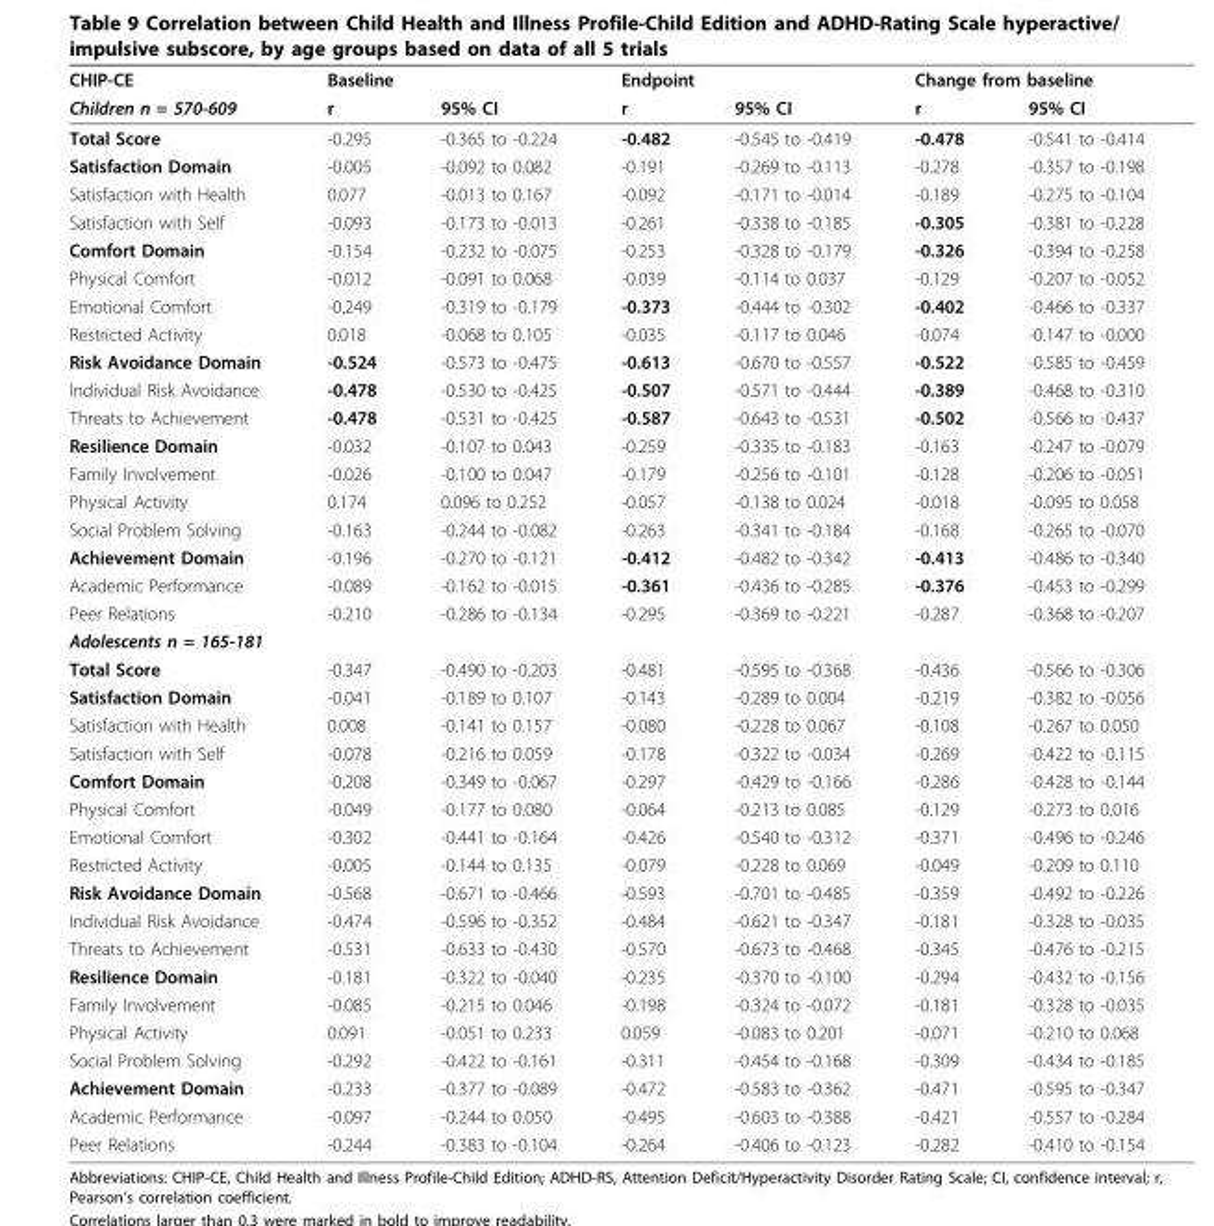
<table><thead><tr><td rowspan="2">CHIP-CE Children n = 570-609</td><td colspan="2">Baseline</td><td colspan="2">Endpoint</td><td colspan="2">Change from baseline</td></tr><tr><td>r</td><td>95% CI</td><td>r</td><td>95% CI</td><td>r</td><td>95% CI</td></tr></thead><tbody><tr><td>Total Score</td><td>-0.295</td><td>-0.365 to -0.224</td><td>-0.482</td><td>-0.545 to -0.419</td><td>-0.478</td><td>-0.541 to -0.414</td></tr><tr><td>Satisfaction Domain</td><td>-0.005</td><td>-0.092 to 0.082</td><td>-0.191</td><td>-0.269 to -0.113</td><td>-0.278</td><td>-0.357 to -0.198</td></tr><tr><td>Satisfaction with Health</td><td>0.077</td><td>-0.013 to 0.167</td><td>-0.092</td><td>-0.171 to -0.014</td><td>-0.189</td><td>-0.275 to -0.104</td></tr><tr><td>Satisfaction with Self</td><td>-0.093</td><td>-0.173 to -0.013</td><td>-0.261</td><td>-0.338 to -0.185</td><td>-0.305</td><td>-0.381 to -0.228</td></tr><tr><td>Comfort Domain</td><td>-0.154</td><td>-0.232 to -0.075</td><td>-0.253</td><td>-0.328 to -0.179</td><td>-0.326</td><td>-0.394 to -0.258</td></tr><tr><td>Physical Comfort</td><td>-0.012</td><td>-0.091 to 0.068</td><td>-0.039</td><td>-0.114 to 0.037</td><td>-0.129</td><td>-0.207 to -0.052</td></tr><tr><td>Emotional Comfort</td><td>-0.249</td><td>-0.319 to -0.179</td><td>-0.373</td><td>-0.444 to -0.302</td><td>-0.402</td><td>-0.466 to -0.337</td></tr><tr><td>Restricted Activity</td><td>0.018</td><td>-0.068 to 0.105</td><td>-0.035</td><td>-0.117 to 0.046</td><td>-0.074</td><td>-0.147 to -0.000</td></tr><tr><td>Risk Avoidance Domain</td><td>-0.524</td><td>-0.573 to -0.475</td><td>-0.613</td><td>-0.670 to -0.557</td><td>-0.522</td><td>-0.585 to -0.459</td></tr><tr><td>Individual Risk Avoidance</td><td>-0.478</td><td>-0.530 to -0.425</td><td>-0.507</td><td>-0.571 to -0.444</td><td>-0.389</td><td>-0.468 to -0.310</td></tr><tr><td>Threats to Achievement</td><td>-0.478</td><td>-0.531 to -0.425</td><td>-0.587</td><td>-0.643 to -0.531</td><td>-0.502</td><td>-0.566 to -0.437</td></tr><tr><td>Resilience Domain</td><td>-0.032</td><td>-0.107 to 0.043</td><td>-0.259</td><td>-0.335 to -0.183</td><td>-0.163</td><td>-0.247 to -0.079</td></tr><tr><td>Family Involvement</td><td>-0.026</td><td>-0.100 to 0.047</td><td>-0.179</td><td>-0.256 to -0.101</td><td>-0.128</td><td>-0.206 to -0.051</td></tr><tr><td>Physical Activity</td><td>0.174</td><td>0.096 to 0.252</td><td>-0.057</td><td>-0.138 to 0.024</td><td>-0.018</td><td>-0.095 to 0.058</td></tr><tr><td>Social Problem Solving</td><td>-0.163</td><td>-0.244 to -0.082</td><td>-0.263</td><td>-0.341 to -0.184</td><td>-0.168</td><td>-0.265 to -0.070</td></tr><tr><td>Achievement Domain</td><td>-0.196</td><td>-0.270 to -0.121</td><td>-0.412</td><td>-0.482 to -0.342</td><td>-0.413</td><td>-0.486 to -0.340</td></tr><tr><td>Academic Performance</td><td>-0.089</td><td>-0.162 to -0.015</td><td>-0.361</td><td>-0.436 to -0.285</td><td>-0.376</td><td>-0.453 to -0.299</td></tr><tr><td>Peer Relations</td><td>-0.210</td><td>-0.286 to -0.134</td><td>-0.295</td><td>-0.369 to -0.221</td><td>-0.287</td><td>-0.368 to -0.207</td></tr><tr><td colspan="7">Adolescents n = 165-181</td></tr><tr><td>Total Score</td><td>-0.347</td><td>-0.490 to -0.203</td><td>-0.481</td><td>-0.595 to -0.368</td><td>-0.436</td><td>-0.566 to -0.306</td></tr><tr><td>Satisfaction Domain</td><td>-0.041</td><td>-0.189 to 0.107</td><td>-0.143</td><td>-0.289 to 0.004</td><td>-0.219</td><td>-0.382 to -0.056</td></tr><tr><td>Satisfaction with Health</td><td>0.008</td><td>-0.141 to 0.157</td><td>-0.080</td><td>-0.228 to 0.067</td><td>-0.108</td><td>-0.267 to 0.050</td></tr><tr><td>Satisfaction with Self</td><td>-0.078</td><td>-0.216 to 0.059</td><td>-0.178</td><td>-0.322 to -0.034</td><td>-0.269</td><td>-0.422 to -0.115</td></tr><tr><td>Comfort Domain</td><td>-0.208</td><td>-0.349 to -0.067</td><td>-0.297</td><td>-0.429 to -0.166</td><td>-0.286</td><td>-0.428 to -0.144</td></tr><tr><td>Physical Comfort</td><td>-0.049</td><td>-0.177 to 0.080</td><td>-0.064</td><td>-0.213 to 0.085</td><td>-0.129</td><td>-0.273 to 0.016</td></tr><tr><td>Emotional Comfort</td><td>-0.302</td><td>-0.441 to -0.164</td><td>-0.426</td><td>-0.540 to -0.312</td><td>-0.371</td><td>-0.496 to -0.246</td></tr><tr><td>Restricted Activity</td><td>-0.005</td><td>-0.144 to 0.135</td><td>-0.079</td><td>-0.228 to 0.069</td><td>-0.049</td><td>-0.209 to 0.110</td></tr><tr><td>Risk Avoidance Domain</td><td>-0.568</td><td>-0.671 to -0.466</td><td>-0.593</td><td>-0.701 to -0.485</td><td>-0.359</td><td>-0.492 to -0.226</td></tr><tr><td>Individual Risk Avoidance</td><td>-0.474</td><td>-0.596 to -0.352</td><td>-0.484</td><td>-0.621 to -0.347</td><td>-0.181</td><td>-0.328 to -0.035</td></tr><tr><td>Threats to Achievement</td><td>-0.531</td><td>-0.633 to -0.430</td><td>-0.570</td><td>-0.673 to -0.468</td><td>-0.345</td><td>-0.476 to -0.215</td></tr><tr><td>Resilience Domain</td><td>-0.181</td><td>-0.322 to -0.040</td><td>-0.235</td><td>-0.370 to -0.100</td><td>-0.294</td><td>-0.432 to -0.156</td></tr><tr><td>Family Involvement</td><td>-0.085</td><td>-0.215 to 0.046</td><td>-0.198</td><td>-0.324 to -0.072</td><td>-0.181</td><td>-0.328 to -0.035</td></tr><tr><td>Physical Activity</td><td>0.091</td><td>-0.051 to 0.233</td><td>0.059</td><td>-0.083 to 0.201</td><td>-0.071</td><td>-0.210 to 0.068</td></tr><tr><td>Social Problem Solving</td><td>-0.292</td><td>-0.422 to -0.161</td><td>-0.311</td><td>-0.454 to -0.168</td><td>-0.309</td><td>-0.434 to -0.185</td></tr><tr><td>Achievement Domain</td><td>-0.233</td><td>-0.377 to -0.089</td><td>-0.472</td><td>-0.583 to -0.362</td><td>-0.471</td><td>-0.595 to -0.347</td></tr><tr><td>Academic Performance</td><td>-0.097</td><td>-0.244 to 0.050</td><td>-0.495</td><td>-0.603 to -0.388</td><td>-0.421</td><td>-0.557 to -0.284</td></tr><tr><td>Peer Relations</td><td>-0.244</td><td>-0.383 to -0.104</td><td>-0.264</td><td>-0.406 to -0.123</td><td>-0.282</td><td>-0.410 to -0.154</td></tr></tbody></table>